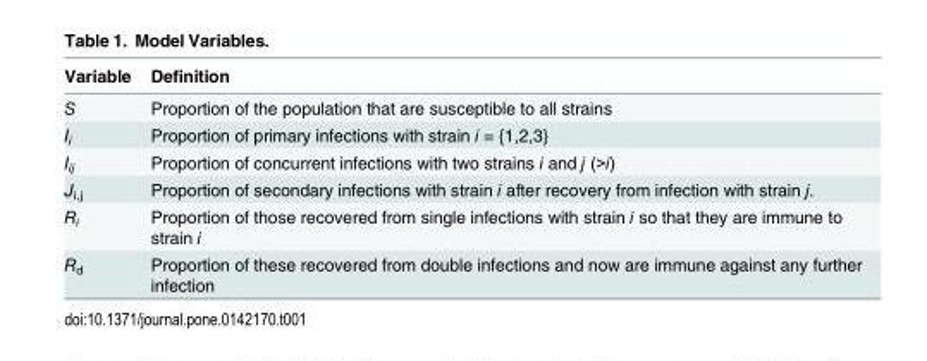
<table><thead><tr><td>Variable</td><td>Definition</td></tr></thead><tbody><tr><td>S</td><td>Proportion of the population that are susceptible to all strains</td></tr><tr><td>I<sub>i</sub></td><td>Proportion of primary infections with strain i = {1,2,3}</td></tr><tr><td>I<sub>ij</sub></td><td>Proportion of concurrent infections with two strains i and j (&gt;i)</td></tr><tr><td>J<sub>i,j</sub></td><td>Proportion of secondary infections with strain i after recovery from infection with strain j.</td></tr><tr><td>R<sub>i</sub></td><td>Proportion of those recovered from single infections with strain i so that they are immune to strain i</td></tr><tr><td>R<sub>d</sub></td><td>Proportion of these recovered from double infections and now are immune against any further infection</td></tr></tbody></table>